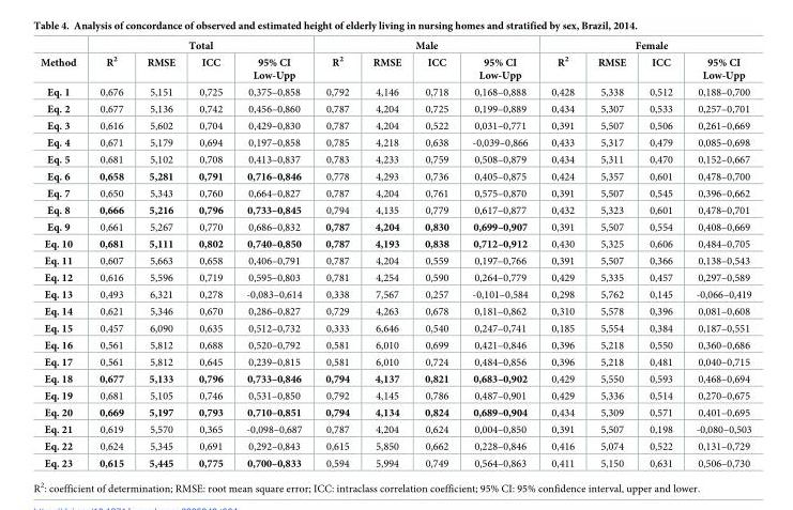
<table><thead><tr><td rowspan="2">Method</td><td colspan="4">Total</td><td colspan="4">Male</td><td colspan="4">Female</td></tr><tr><td>R<sup>2</sup></td><td>RMSE</td><td>ICC</td><td>95% CI Low-Upp</td><td>R<sup>2</sup></td><td>RMSE</td><td>ICC</td><td>95% CI Low-Upp</td><td>R<sup>2</sup></td><td>RMSE</td><td>ICC</td><td>95% CI Low-Upp</td></tr></thead><tbody><tr><td>Eq. 1</td><td>0,676</td><td>5,151</td><td>0,725</td><td>0,375–0,858</td><td>0,792</td><td>4,146</td><td>0,718</td><td>0,168–0,888</td><td>0,428</td><td>5,338</td><td>0,512</td><td>0,188–0,700</td></tr><tr><td>Eq. 2</td><td>0,677</td><td>5,136</td><td>0,742</td><td>0,456–0,860</td><td>0,787</td><td>4,204</td><td>0,725</td><td>0,199–0,889</td><td>0,434</td><td>5,307</td><td>0,533</td><td>0,257–0,701</td></tr><tr><td>Eq. 3</td><td>0,616</td><td>5,602</td><td>0,704</td><td>0,429–0,830</td><td>0,787</td><td>4,204</td><td>0,522</td><td>0,031–0,771</td><td>0,391</td><td>5,507</td><td>0,506</td><td>0,261–0,669</td></tr><tr><td>Eq. 4</td><td>0,671</td><td>5,179</td><td>0,694</td><td>0,197–0,858</td><td>0,785</td><td>4,218</td><td>0,638</td><td>-0,039–0,866</td><td>0,433</td><td>5,317</td><td>0,479</td><td>0,085–0,698</td></tr><tr><td>Eq. 5</td><td>0,681</td><td>5,102</td><td>0,708</td><td>0,413–0,837</td><td>0,783</td><td>4,233</td><td>0,759</td><td>0,508–0,879</td><td>0,434</td><td>5,311</td><td>0,470</td><td>0,152–0,667</td></tr><tr><td>Eq. 6</td><td>0,658</td><td>5,281</td><td>0,791</td><td>0,716–0,846</td><td>0,778</td><td>4,293</td><td>0,736</td><td>0,405–0,875</td><td>0,424</td><td>5,357</td><td>0,601</td><td>0,478–0,700</td></tr><tr><td>Eq. 7</td><td>0,650</td><td>5,343</td><td>0,760</td><td>0,664–0,827</td><td>0,787</td><td>4,204</td><td>0,761</td><td>0,575–0,870</td><td>0,391</td><td>5,507</td><td>0,545</td><td>0,396–0,662</td></tr><tr><td>Eq. 8</td><td>0,666</td><td>5,216</td><td>0,796</td><td>0,733–0,845</td><td>0,794</td><td>4,135</td><td>0,779</td><td>0,617–0,877</td><td>0,432</td><td>5,323</td><td>0,601</td><td>0,478–0,701</td></tr><tr><td>Eq. 9</td><td>0,661</td><td>5,267</td><td>0,770</td><td>0,686–0,832</td><td>0,787</td><td>4,204</td><td>0,830</td><td>0,699–0,907</td><td>0,391</td><td>5,507</td><td>0,554</td><td>0,408–0,669</td></tr><tr><td>Eq. 10</td><td>0,681</td><td>5,111</td><td>0,802</td><td>0,740–0,850</td><td>0,787</td><td>4,193</td><td>0,838</td><td>0,712–0,912</td><td>0,430</td><td>5,325</td><td>0,606</td><td>0,484–0,705</td></tr><tr><td>Eq. 11</td><td>0,607</td><td>5,663</td><td>0,658</td><td>0,406–0,791</td><td>0,787</td><td>4,204</td><td>0,559</td><td>0,197–0,766</td><td>0,391</td><td>5,507</td><td>0,366</td><td>0,138–0,543</td></tr><tr><td>Eq. 12</td><td>0,616</td><td>5,596</td><td>0,719</td><td>0,595–0,803</td><td>0,781</td><td>4,254</td><td>0,590</td><td>0,264–0,779</td><td>0,429</td><td>5,335</td><td>0,457</td><td>0,297–0,589</td></tr><tr><td>Eq. 13</td><td>0,493</td><td>6,321</td><td>0,278</td><td>-0,083–0,614</td><td>0,338</td><td>7,567</td><td>0,257</td><td>-0,101–0,584</td><td>0,298</td><td>5,762</td><td>0,145</td><td>-0,066–0,419</td></tr><tr><td>Eq. 14</td><td>0,621</td><td>5,346</td><td>0,670</td><td>0,286–0,827</td><td>0,729</td><td>4,263</td><td>0,678</td><td>0,181–0,862</td><td>0,310</td><td>5,578</td><td>0,396</td><td>0,081–0,608</td></tr><tr><td>Eq. 15</td><td>0,457</td><td>6,090</td><td>0,635</td><td>0,512–0,732</td><td>0,333</td><td>6,646</td><td>0,540</td><td>0,247–0,741</td><td>0,185</td><td>5,554</td><td>0,384</td><td>0,187–0,551</td></tr><tr><td>Eq. 16</td><td>0,561</td><td>5,812</td><td>0,688</td><td>0,520–0,792</td><td>0,581</td><td>6,010</td><td>0,699</td><td>0,421–0,846</td><td>0,396</td><td>5,218</td><td>0,550</td><td>0,360–0,686</td></tr><tr><td>Eq. 17</td><td>0,561</td><td>5,812</td><td>0,645</td><td>0,239–0,815</td><td>0,581</td><td>6,010</td><td>0,724</td><td>0,484–0,856</td><td>0,396</td><td>5,218</td><td>0,481</td><td>0,040–0,715</td></tr><tr><td>Eq. 18</td><td>0,677</td><td>5,133</td><td>0,796</td><td>0,733–0,846</td><td>0,794</td><td>4,137</td><td>0,821</td><td>0,683–0,902</td><td>0,429</td><td>5,550</td><td>0,593</td><td>0,468–0,694</td></tr><tr><td>Eq. 19</td><td>0,681</td><td>5,105</td><td>0,746</td><td>0,531–0,850</td><td>0,792</td><td>4,145</td><td>0,786</td><td>0,487–0,901</td><td>0,429</td><td>5,336</td><td>0,514</td><td>0,270–0,675</td></tr><tr><td>Eq. 20</td><td>0,669</td><td>5,197</td><td>0,793</td><td>0,710–0,851</td><td>0,794</td><td>4,134</td><td>0,824</td><td>0,689–0,904</td><td>0,434</td><td>5,309</td><td>0,571</td><td>0,401–0,695</td></tr><tr><td>Eq. 21</td><td>0,619</td><td>5,570</td><td>0,365</td><td>-0,098–0,687</td><td>0,787</td><td>4,204</td><td>0,624</td><td>0,004–0,850</td><td>0,391</td><td>5,507</td><td>0,198</td><td>-0,080–0,503</td></tr><tr><td>Eq. 22</td><td>0,624</td><td>5,345</td><td>0,691</td><td>0,292–0,843</td><td>0,615</td><td>5,850</td><td>0,662</td><td>0,228–0,846</td><td>0,416</td><td>5,074</td><td>0,522</td><td>0,131–0,729</td></tr><tr><td>Eq. 23</td><td>0,615</td><td>5,445</td><td>0,775</td><td>0,700–0,833</td><td>0,594</td><td>5,994</td><td>0,749</td><td>0,564–0,863</td><td>0,411</td><td>5,150</td><td>0,631</td><td>0,506–0,730</td></tr></tbody></table>